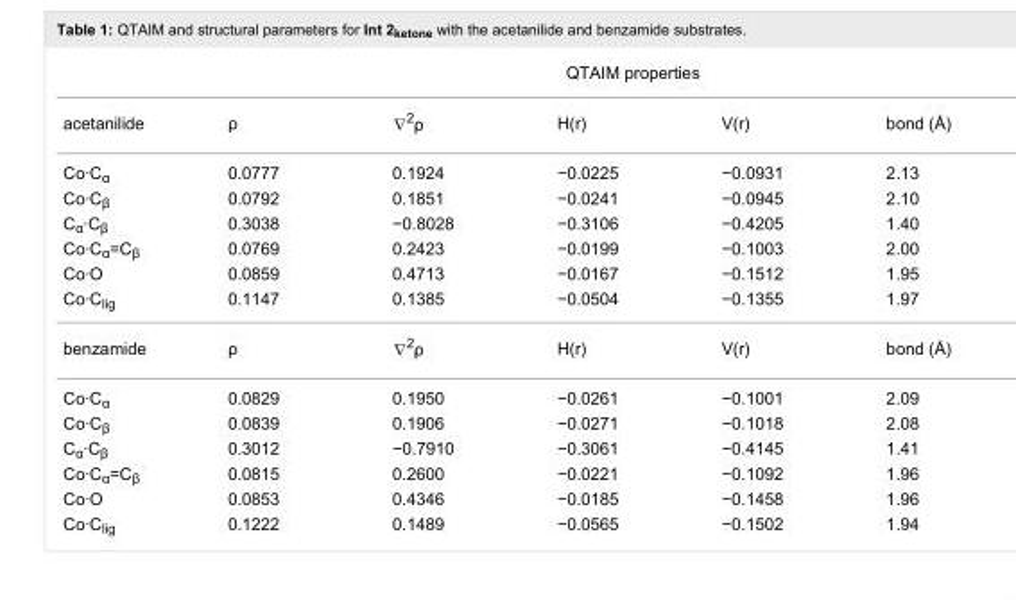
<table><thead><tr><td rowspan="2">acetanilide</td><td colspan="5">QTAIM properties</td></tr><tr><td>ρ</td><td></td><td>H(r)</td><td>V(r)</td><td>bond (Å)</td></tr></thead><tbody><tr><td>Co·C<sub>α</sub></td><td>0.0777</td><td>0.1924</td><td>−0.0225</td><td>−0.0931</td><td>2.13</td></tr><tr><td>Co·C<sub>β</sub></td><td>0.0792</td><td>0.1851</td><td>−0.0241</td><td>−0.0945</td><td>2.10</td></tr><tr><td>C<sub>α</sub>·C<sub>β</sub></td><td>0.3038</td><td>−0.8028</td><td>−0.3106</td><td>−0.4205</td><td>1.40</td></tr><tr><td>Co·C<sub>α</sub>=C<sub>β</sub></td><td>0.0769</td><td>0.2423</td><td>−0.0199</td><td>−0.1003</td><td>2.00</td></tr><tr><td>Co·O</td><td>0.0859</td><td>0.4713</td><td>−0.0167</td><td>−0.1512</td><td>1.95</td></tr><tr><td>Co·C<sub>lig</sub></td><td>0.1147</td><td>0.1385</td><td>−0.0504</td><td>−0.1355</td><td>1.97</td></tr><tr><td>benzamide</td><td>ρ</td><td></td><td>H(r)</td><td>V(r)</td><td>bond (Å)</td></tr><tr><td>Co·C<sub>α</sub></td><td>0.0829</td><td>0.1950</td><td>−0.0261</td><td>−0.1001</td><td>2.09</td></tr><tr><td>Co·C<sub>β</sub></td><td>0.0839</td><td>0.1906</td><td>−0.0271</td><td>−0.1018</td><td>2.08</td></tr><tr><td>C<sub>α</sub>·C<sub>β</sub></td><td>0.3012</td><td>−0.7910</td><td>−0.3061</td><td>−0.4145</td><td>1.41</td></tr><tr><td>Co·C<sub>α</sub>=C<sub>β</sub></td><td>0.0815</td><td>0.2600</td><td>−0.0221</td><td>−0.1092</td><td>1.96</td></tr><tr><td>Co·O</td><td>0.0853</td><td>0.4346</td><td>−0.0185</td><td>−0.1458</td><td>1.96</td></tr><tr><td>Co·C<sub>lig</sub></td><td>0.1222</td><td>0.1489</td><td>−0.0565</td><td>−0.1502</td><td>1.94</td></tr></tbody></table>